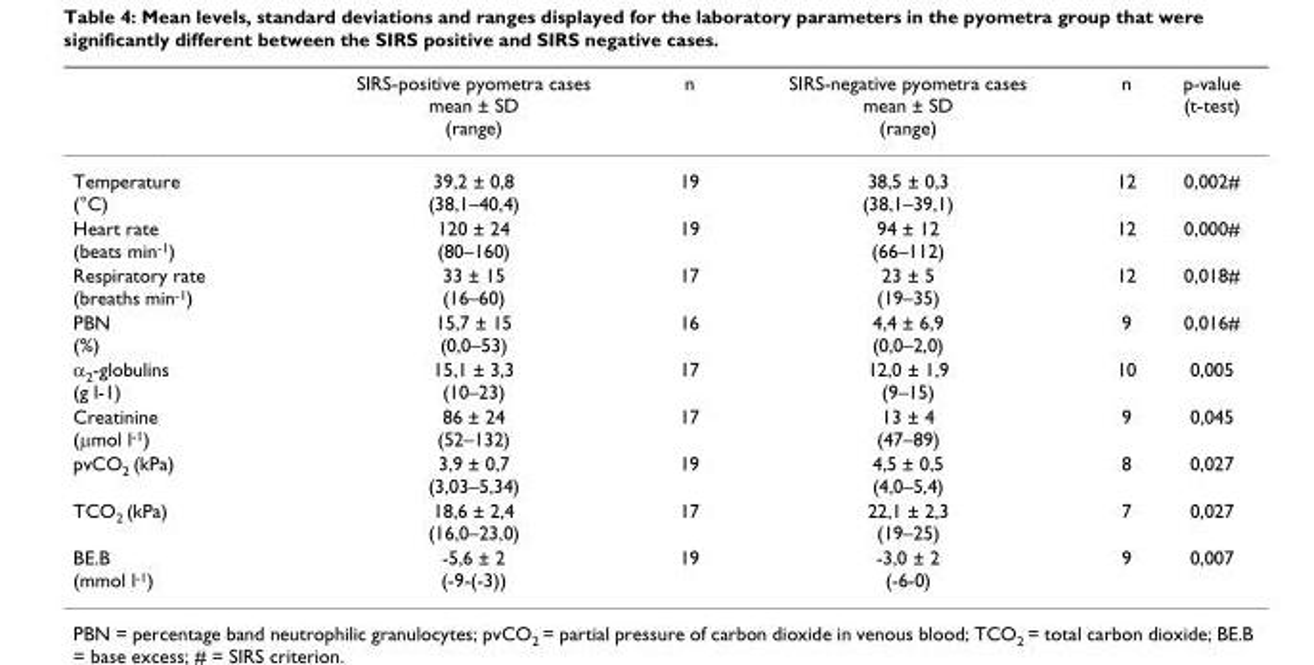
<table><thead><tr><td></td><td>SIRS-positive pyometra cases mean ± SD (range)</td><td>n</td><td>SIRS-negative pyometra cases mean ± SD (range)</td><td>n</td><td>p-value (t-test)</td></tr></thead><tbody><tr><td>Temperature (°C)</td><td>39,2 ± 0,8 (38,1–40,4)</td><td>19</td><td>38,5 ± 0,3 (38,1–39,1)</td><td>12</td><td>0,002#</td></tr><tr><td>Heart rate (beats min<sup>-1</sup>)</td><td>120 ± 24 (80–160)</td><td>19</td><td>94 ± 12 (66–112)</td><td>12</td><td>0,000#</td></tr><tr><td>Respiratory rate (breaths min<sup>-1</sup>)</td><td>33 ± 15 (16–60)</td><td>17</td><td>23 ± 5 (19–35)</td><td>12</td><td>0,018#</td></tr><tr><td>PBN (%)</td><td>15,7 ± 15 (0,0–53)</td><td>16</td><td>4,4 ± 6,9 (0,0–2,0)</td><td>9</td><td>0,016#</td></tr><tr><td>α<sub>2</sub>-globulins (g l-1)</td><td>15,1 ± 3,3 (10–23)</td><td>17</td><td>12,0 ± 1,9 (9–15)</td><td>10</td><td>0,005</td></tr><tr><td>Creatinine (μmol l<sup>-1</sup>)</td><td>86 ± 24 (52–132)</td><td>17</td><td>13 ± 4 (47–89)</td><td>9</td><td>0,045</td></tr><tr><td>pvCO<sub>2</sub> (kPa)</td><td>3,9 ± 0,7 (3,03–5,34)</td><td>19</td><td>4,5 ± 0,5 (4,0–5,4)</td><td>8</td><td>0,027</td></tr><tr><td>TCO<sub>2</sub> (kPa)</td><td>18,6 ± 2,4 (16,0–23,0)</td><td>17</td><td>22,1 ± 2,3 (19–25)</td><td>7</td><td>0,027</td></tr><tr><td>BE.B (mmol l<sup>-1</sup>)</td><td>-5,6 ± 2 (-9-(-3))</td><td>19</td><td>-3,0 ± 2 (-6-0)</td><td>9</td><td>0,007</td></tr></tbody></table>